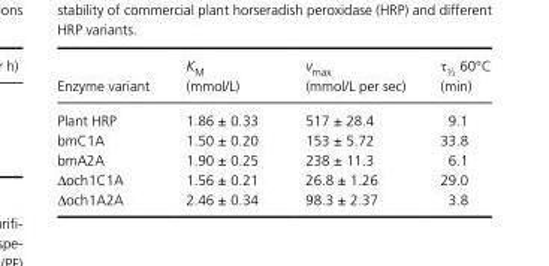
<table><thead><tr><td>Enzyme variant</td><td>K<sub>M</sub> (mmol/L)</td><td>v<sub>max</sub> (mmol/L per sec)</td><td>τ<sub>½</sub> 60°C (min)</td></tr></thead><tbody><tr><td>Plant HRP</td><td>1.86 ± 0.33</td><td>517 ± 28.4</td><td>9.1</td></tr><tr><td>bmC1A</td><td>1.50 ± 0.20</td><td>153 ± 5.72</td><td>33.8</td></tr><tr><td>bmA2A</td><td>1.90 ± 0.25</td><td>238 ± 11.3</td><td>6.1</td></tr><tr><td>Δoch1C1A</td><td>1.56 ± 0.21</td><td>26.8 ± 1.26</td><td>29.0</td></tr><tr><td>Δoch1A2A</td><td>2.46 ± 0.34</td><td>98.3 ± 2.37</td><td>3.8</td></tr></tbody></table>